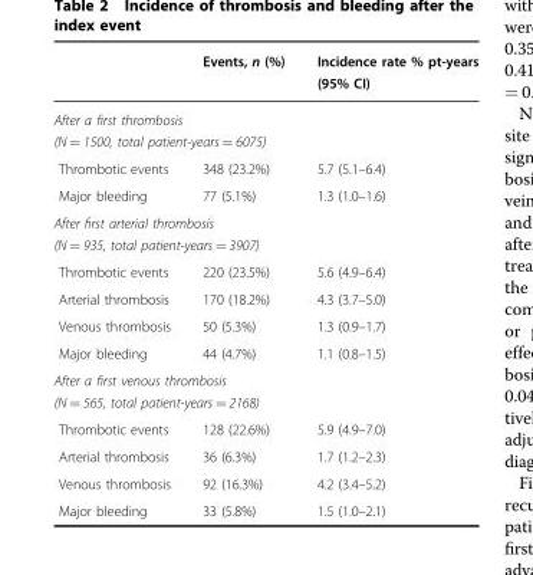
<table><thead><tr><td></td><td>Events, n (%)</td><td>Incidence rate % pt-years (95% CI)</td></tr></thead><tbody><tr><td colspan="3">After a first thrombosis (N = 1500, total patient-years = 6075)</td></tr><tr><td>Thrombotic events</td><td>348 (23.2%)</td><td>5.7 (5.1–6.4)</td></tr><tr><td>Major bleeding</td><td>77 (5.1%)</td><td>1.3 (1.0–1.6)</td></tr><tr><td colspan="3">After first arterial thrombosis (N = 935, total patient-years = 3907)</td></tr><tr><td>Thrombotic events</td><td>220 (23.5%)</td><td>5.6 (4.9–6.4)</td></tr><tr><td>Arterial thrombosis</td><td>170 (18.2%)</td><td>4.3 (3.7–5.0)</td></tr><tr><td>Venous thrombosis</td><td>50 (5.3%)</td><td>1.3 (0.9–1.7)</td></tr><tr><td>Major bleeding</td><td>44 (4.7%)</td><td>1.1 (0.8–1.5)</td></tr><tr><td colspan="3">After a first venous thrombosis (N = 565, total patient-years = 2168)</td></tr><tr><td>Thrombotic events</td><td>128 (22.6%)</td><td>5.9 (4.9–7.0)</td></tr><tr><td>Arterial thrombosis</td><td>36 (6.3%)</td><td>1.7 (1.2–2.3)</td></tr><tr><td>Venous thrombosis</td><td>92 (16.3%)</td><td>4.2 (3.4–5.2)</td></tr><tr><td>Major bleeding</td><td>33 (5.8%)</td><td>1.5 (1.0–2.1)</td></tr></tbody></table>